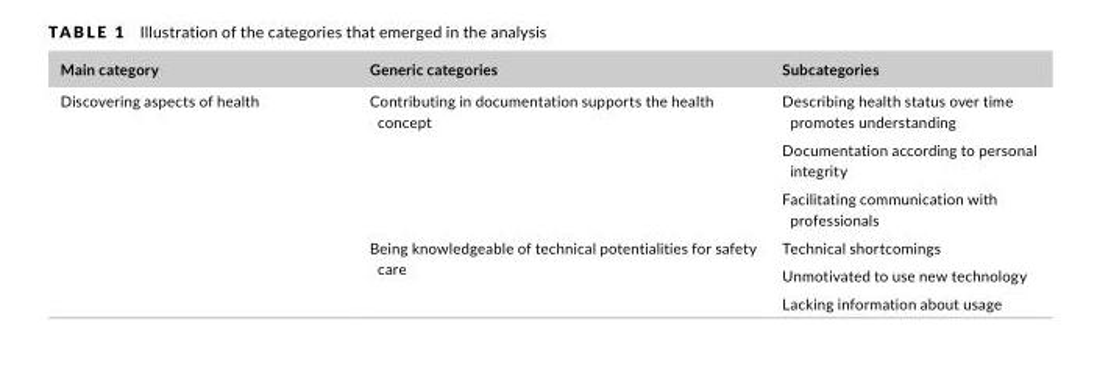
<table><thead><tr><td>Main category</td><td>Generic categories</td><td>Subcategories</td></tr></thead><tbody><tr><td rowspan="6">Discovering aspects of health</td><td rowspan="3">Contributing in documentation supports the health concept</td><td>Describing health status over time promotes understanding</td></tr><tr><td>Documentation according to personal integrity</td></tr><tr><td>Facilitating communication with professionals</td></tr><tr><td rowspan="3">Being knowledgeable of technical potentialities for safety care</td><td>Technical shortcomings</td></tr><tr><td>Unmotivated to use new technology</td></tr><tr><td>Lacking information about usage</td></tr></tbody></table>